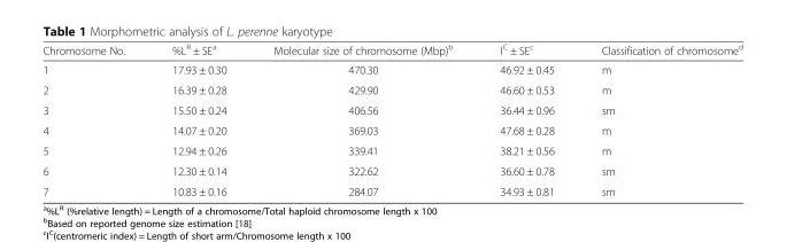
<table><thead><tr><td>Chromosome No.</td><td>%L<sup>R</sup> ± SE<sup>a</sup></td><td>Molecular size of chromosome (Mbp)<sup>b</sup></td><td>I<sup>C</sup> ± SE<sup>c</sup></td><td>Classification of chromosome<sup>d</sup></td></tr></thead><tbody><tr><td>1</td><td>17.93 ± 0.30</td><td>470.30</td><td>46.92 ± 0.45</td><td>m</td></tr><tr><td>2</td><td>16.39 ± 0.28</td><td>429.90</td><td>46.60 ± 0.53</td><td>m</td></tr><tr><td>3</td><td>15.50 ± 0.24</td><td>406.56</td><td>36.44 ± 0.96</td><td>sm</td></tr><tr><td>4</td><td>14.07 ± 0.20</td><td>369.03</td><td>47.68 ± 0.28</td><td>m</td></tr><tr><td>5</td><td>12.94 ± 0.26</td><td>339.41</td><td>38.21 ± 0.56</td><td>m</td></tr><tr><td>6</td><td>12.30 ± 0.14</td><td>322.62</td><td>36.60 ± 0.78</td><td>sm</td></tr><tr><td>7</td><td>10.83 ± 0.16</td><td>284.07</td><td>34.93 ± 0.81</td><td>sm</td></tr></tbody></table>